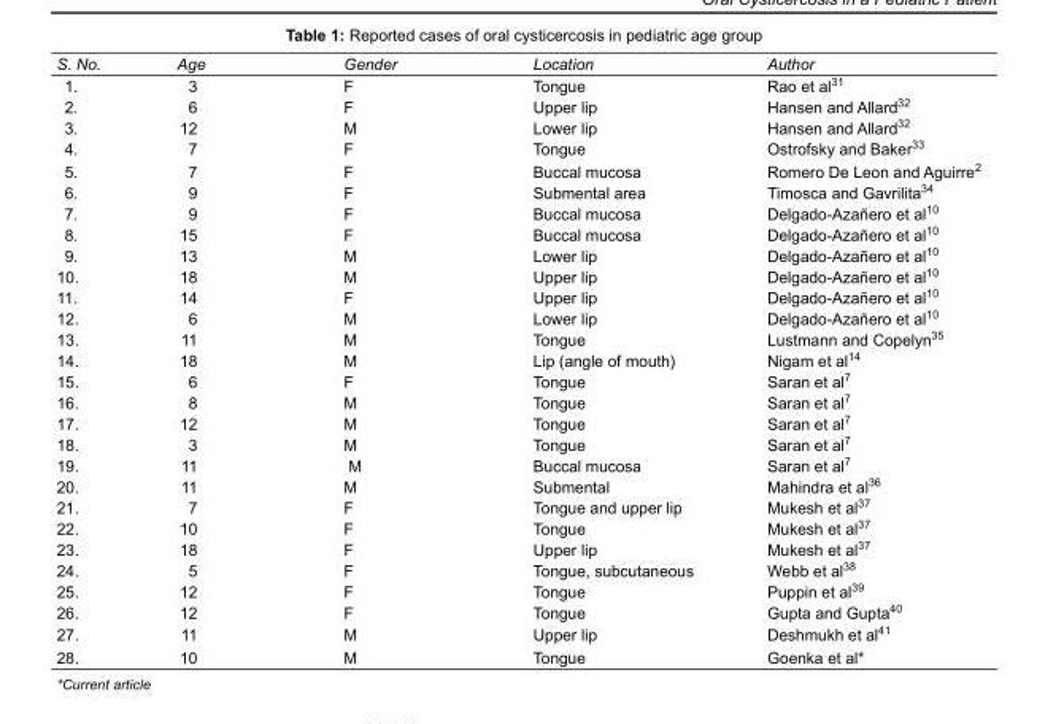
<table><tbody><tr><td>S. No.</td><td>Age</td><td>Gender</td><td>Location</td><td>Author</td></tr><tr><td>1.</td><td>3</td><td>F</td><td>Tongue</td><td>Rao et al<sup>31</sup></td></tr><tr><td>2.</td><td>6</td><td>F</td><td>Upper lip</td><td>Hansen and Allard<sup>32</sup></td></tr><tr><td>3.</td><td>12</td><td>M</td><td>Lower lip</td><td>Hansen and Allard<sup>32</sup></td></tr><tr><td>4.</td><td>7</td><td>F</td><td>Tongue</td><td>Ostrofsky and Baker<sup>33</sup></td></tr><tr><td>5.</td><td>7</td><td>F</td><td>Buccal mucosa</td><td>Romero De Leon and Aguirre<sup>2</sup></td></tr><tr><td>6.</td><td>9</td><td>F</td><td>Submental area</td><td>Timosca and Gavrilita<sup>34</sup></td></tr><tr><td>7.</td><td>9</td><td>F</td><td>Buccal mucosa</td><td>Delgado-Azañero et al<sup>10</sup></td></tr><tr><td>8.</td><td>15</td><td>F</td><td>Buccal mucosa</td><td>Delgado-Azañero et al<sup>10</sup></td></tr><tr><td>9.</td><td>13</td><td>M</td><td>Lower lip</td><td>Delgado-Azañero et al<sup>10</sup></td></tr><tr><td>10.</td><td>18</td><td>M</td><td>Upper lip</td><td>Delgado-Azañero et al<sup>10</sup></td></tr><tr><td>11.</td><td>14</td><td>F</td><td>Upper lip</td><td>Delgado-Azañero et al<sup>10</sup></td></tr><tr><td>12.</td><td>6</td><td>M</td><td>Lower lip</td><td>Delgado-Azañero et al<sup>10</sup></td></tr><tr><td>13.</td><td>11</td><td>M</td><td>Tongue</td><td>Lustmann and Copelyn<sup>35</sup></td></tr><tr><td>14.</td><td>18</td><td>M</td><td>Lip (angle of mouth)</td><td>Nigam et al<sup>14</sup></td></tr><tr><td>15.</td><td>6</td><td>F</td><td>Tongue</td><td>Saran et al<sup>7</sup></td></tr><tr><td>16.</td><td>8</td><td>M</td><td>Tongue</td><td>Saran et al<sup>7</sup></td></tr><tr><td>17.</td><td>12</td><td>M</td><td>Tongue</td><td>Saran et al<sup>7</sup></td></tr><tr><td>18.</td><td>3</td><td>M</td><td>Tongue</td><td>Saran et al<sup>7</sup></td></tr><tr><td>19.</td><td>11</td><td>M</td><td>Buccal mucosa</td><td>Saran et al<sup>7</sup></td></tr><tr><td>20.</td><td>11</td><td>M</td><td>Submental</td><td>Mahindra et al<sup>36</sup></td></tr><tr><td>21.</td><td>7</td><td>F</td><td>Tongue and upper lip</td><td>Mukesh et al<sup>37</sup></td></tr><tr><td>22.</td><td>10</td><td>F</td><td>Tongue</td><td>Mukesh et al<sup>37</sup></td></tr><tr><td>23.</td><td>18</td><td>F</td><td>Upper lip</td><td>Mukesh et al<sup>37</sup></td></tr><tr><td>24.</td><td>5</td><td>F</td><td>Tongue, subcutaneous</td><td>Webb et al<sup>38</sup></td></tr><tr><td>25.</td><td>12</td><td>F</td><td>Tongue</td><td>Puppin et al<sup>39</sup></td></tr><tr><td>26.</td><td>12</td><td>F</td><td>Tongue</td><td>Gupta and Gupta<sup>40</sup></td></tr><tr><td>27.</td><td>11</td><td>M</td><td>Upper lip</td><td>Deshmukh et al<sup>41</sup></td></tr><tr><td>28.</td><td>10</td><td>M</td><td>Tongue</td><td>Goenka et al*</td></tr></tbody></table>